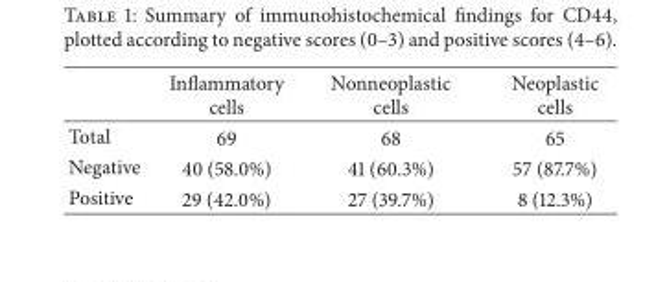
<table><thead><tr><td></td><td>Inflammatory cells</td><td>Nonneoplastic cells</td><td>Neoplastic cells</td></tr></thead><tbody><tr><td>Total</td><td>69</td><td>68</td><td>65</td></tr><tr><td>Negative</td><td>40 (58.0%)</td><td>41 (60.3%)</td><td>57 (87.7%)</td></tr><tr><td>Positive</td><td>29 (42.0%)</td><td>27 (39.7%)</td><td>8 (12.3%)</td></tr></tbody></table>